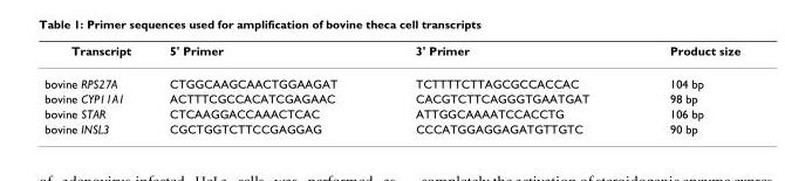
<table><thead><tr><td>Transcript</td><td>5&#x27; Primer</td><td>3&#x27; Primer</td><td>Product size</td></tr></thead><tbody><tr><td>bovine RPS27A</td><td>CTGGCAAGCAACTGGAAGAT</td><td>TCTTTTCTTAGCGCCACCAC</td><td>104 bp</td></tr><tr><td>bovine CYP11A1</td><td>ACTTTCGCCACATCGAGAAC</td><td>CACGTCTTCAGGGTGAATGAT</td><td>98 bp</td></tr><tr><td>bovine STAR</td><td>CTCAAGGACCAAACTCAC</td><td>ATTGGCAAAATCCACCTG</td><td>106 bp</td></tr><tr><td>bovine INSL3</td><td>CGCTGGTCTTCCGAGGAG</td><td>CCCATGGAGGAGATGTTGTC</td><td>90 bp</td></tr></tbody></table>